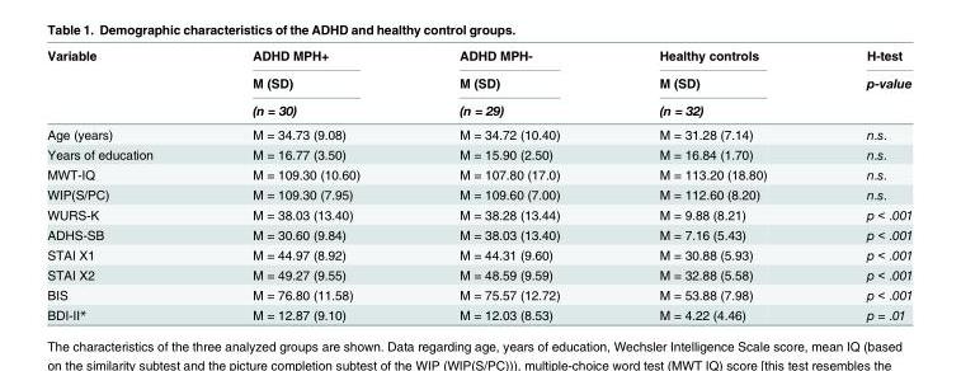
<table><thead><tr><td rowspan="3">Variable</td><td rowspan="3">ADHD MPH+ M (SD) (n = 30)</td><td rowspan="3">ADHD MPH- M (SD) (n = 29)</td><td rowspan="3">Healthy controls M (SD) (n = 32)</td><td rowspan="3">H-test p-value</td></tr><tr></tr><tr></tr></thead><tbody><tr><td>Age (years)</td><td>M = 34.73 (9.08)</td><td>M = 34.72 (10.40)</td><td>M = 31.28 (7.14)</td><td>n.s.</td></tr><tr><td>Years of education</td><td>M = 16.77 (3.50)</td><td>M = 15.90 (2.50)</td><td>M = 16.84 (1.70)</td><td>n.s.</td></tr><tr><td>MWT-IQ</td><td>M = 109.30 (10.60)</td><td>M = 107.80 (17.0)</td><td>M = 113.20 (18.80)</td><td>n.s.</td></tr><tr><td>WIP(S/PC)</td><td>M = 109.30 (7.95)</td><td>M = 109.60 (7.00)</td><td>M = 112.60 (8.20)</td><td>n.s.</td></tr><tr><td>WURS-K</td><td>M = 38.03 (13.40)</td><td>M = 38.28 (13.44)</td><td>M = 9.88 (8.21)</td><td>p &lt; .001</td></tr><tr><td>ADHS-SB</td><td>M = 30.60 (9.84)</td><td>M = 38.03 (13.40)</td><td>M = 7.16 (5.43)</td><td>p &lt; .001</td></tr><tr><td>STAI X1</td><td>M = 44.97 (8.92)</td><td>M = 44.31 (9.60)</td><td>M = 30.88 (5.93)</td><td>p &lt; .001</td></tr><tr><td>STAI X2</td><td>M = 49.27 (9.55)</td><td>M = 48.59 (9.59)</td><td>M = 32.88 (5.58)</td><td>p &lt; .001</td></tr><tr><td>BIS</td><td>M = 76.80 (11.58)</td><td>M = 75.57 (12.72)</td><td>M = 53.88 (7.98)</td><td>p &lt; .001</td></tr><tr><td>BDI-II*</td><td>M = 12.87 (9.10)</td><td>M = 12.03 (8.53)</td><td>M = 4.22 (4.46)</td><td>p = .01</td></tr></tbody></table>